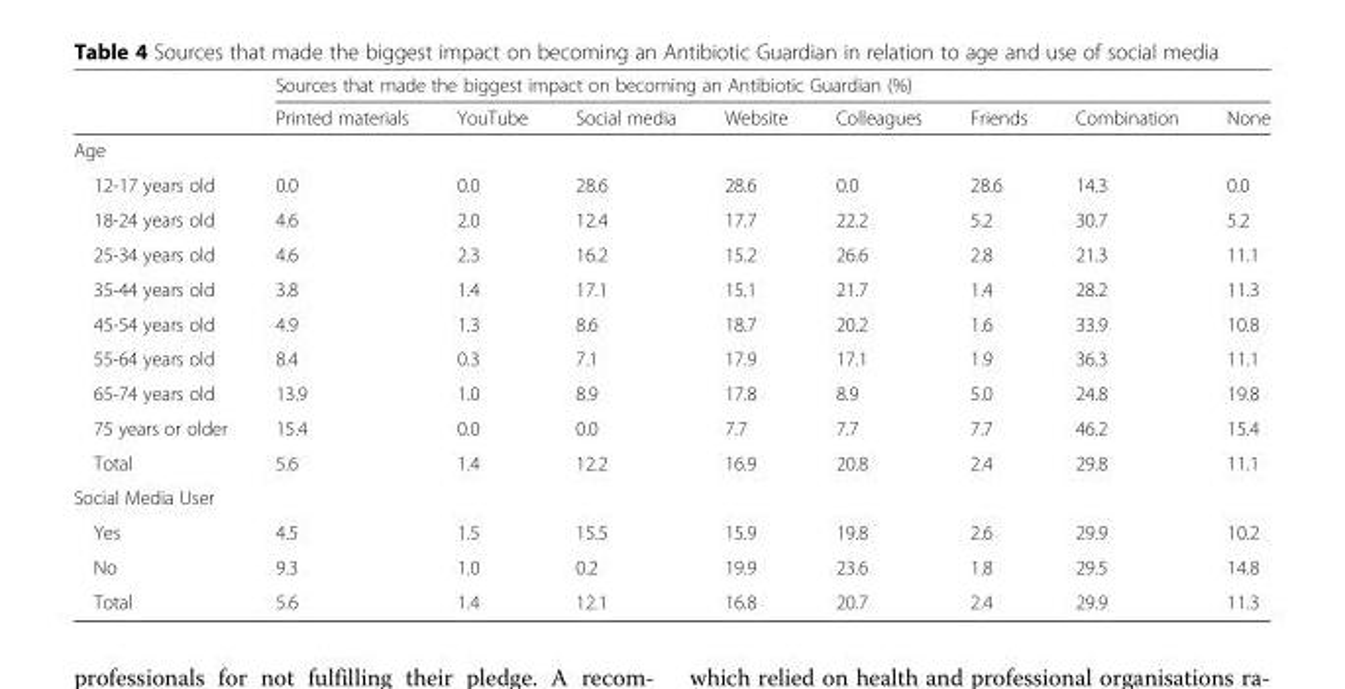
<table><thead><tr><td rowspan="2"></td><td colspan="8">Sources that made the biggest impact on becoming an Antibiotic Guardian (%)</td></tr><tr><td>Printed materials</td><td>YouTube</td><td>Social media</td><td>Website</td><td>Colleagues</td><td>Friends</td><td>Combination</td><td>None</td></tr></thead><tbody><tr><td colspan="9">Age</td></tr><tr><td>12-17 years old</td><td>0.0</td><td>0.0</td><td>28.6</td><td>28.6</td><td>0.0</td><td>28.6</td><td>14.3</td><td>0.0</td></tr><tr><td>18-24 years old</td><td>4.6</td><td>2.0</td><td>12.4</td><td>17.7</td><td>22.2</td><td>5.2</td><td>30.7</td><td>5.2</td></tr><tr><td>25-34 years old</td><td>4.6</td><td>2.3</td><td>16.2</td><td>15.2</td><td>26.6</td><td>2.8</td><td>21.3</td><td>11.1</td></tr><tr><td>35-44 years old</td><td>3.8</td><td>1.4</td><td>17.1</td><td>15.1</td><td>21.7</td><td>1.4</td><td>28.2</td><td>11.3</td></tr><tr><td>45-54 years old</td><td>4.9</td><td>1.3</td><td>8.6</td><td>18.7</td><td>20.2</td><td>1.6</td><td>33.9</td><td>10.8</td></tr><tr><td>55-64 years old</td><td>8.4</td><td>0.3</td><td>7.1</td><td>17.9</td><td>17.1</td><td>1.9</td><td>36.3</td><td>11.1</td></tr><tr><td>65-74 years old</td><td>13.9</td><td>1.0</td><td>8.9</td><td>17.8</td><td>8.9</td><td>5.0</td><td>24.8</td><td>19.8</td></tr><tr><td>75 years or older</td><td>15.4</td><td>0.0</td><td>0.0</td><td>7.7</td><td>7.7</td><td>7.7</td><td>46.2</td><td>15.4</td></tr><tr><td>Total</td><td>5.6</td><td>1.4</td><td>12.2</td><td>16.9</td><td>20.8</td><td>2.4</td><td>29.8</td><td>11.1</td></tr><tr><td colspan="9">Social Media User</td></tr><tr><td>Yes</td><td>4.5</td><td>1.5</td><td>15.5</td><td>15.9</td><td>19.8</td><td>2.6</td><td>29.9</td><td>10.2</td></tr><tr><td>No</td><td>9.3</td><td>1.0</td><td>0.2</td><td>19.9</td><td>23.6</td><td>1.8</td><td>29.5</td><td>14.8</td></tr><tr><td>Total</td><td>5.6</td><td>1.4</td><td>12.1</td><td>16.8</td><td>20.7</td><td>2.4</td><td>29.9</td><td>11.3</td></tr></tbody></table>